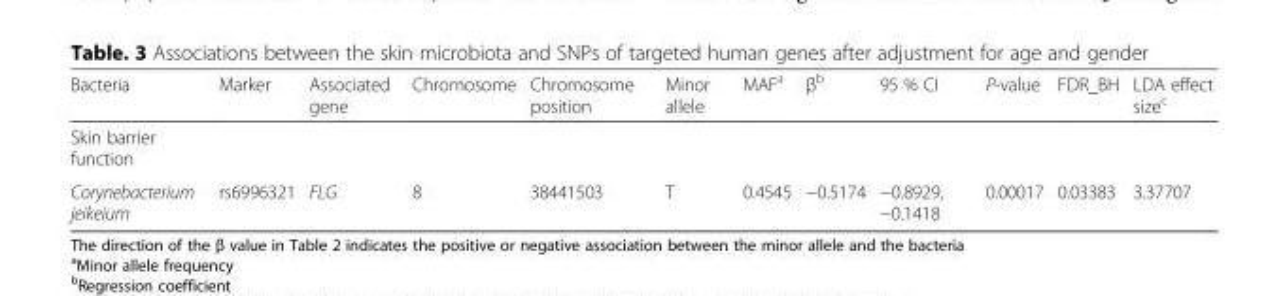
<table><thead><tr><td>Bacteria</td><td>Marker</td><td>Associated gene</td><td>Chromosome</td><td>Chromosome position</td><td>Minor allele</td><td>MAF<sup>a</sup></td><td>β<sup>b</sup></td><td>95 % CI</td><td>P-value</td><td>FDR_BH</td><td>LDA effect size<sup>c</sup></td></tr></thead><tbody><tr><td colspan="12">Skin barrier function</td></tr><tr><td>Corynebacterium jeikeium</td><td>rs6996321</td><td>FLG</td><td>8</td><td>38441503</td><td>T</td><td>0.4545</td><td>−0.5174</td><td>−0.8929, −0.1418</td><td>0.00017</td><td>0.03383</td><td>3.37707</td></tr></tbody></table>